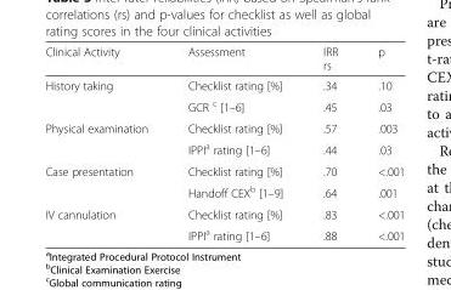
<table><thead><tr><td>Clinical Activity</td><td>Assessment</td><td>IRR rs</td><td>p</td></tr></thead><tbody><tr><td rowspan="2">History taking</td><td>Checklist rating [%]</td><td>.34</td><td>.10</td></tr><tr><td>GCR <sup>c</sup> [1–6]</td><td>.45</td><td>.03</td></tr><tr><td rowspan="2">Physical examination</td><td>Checklist rating [%]</td><td>.57</td><td>.003</td></tr><tr><td>IPPI<sup>a</sup> rating [1–6]</td><td>.44</td><td>.03</td></tr><tr><td rowspan="2">Case presentation</td><td>Checklist rating [%]</td><td>.70</td><td>&lt;.001</td></tr><tr><td>Handoff CEX<sup>b</sup> [1–9]</td><td>.64</td><td>.001</td></tr><tr><td rowspan="2">IV cannulation</td><td>Checklist rating [%]</td><td>.83</td><td>&lt;.001</td></tr><tr><td>IPPI<sup>a</sup> rating [1–6]</td><td>.88</td><td>&lt;.001</td></tr></tbody></table>